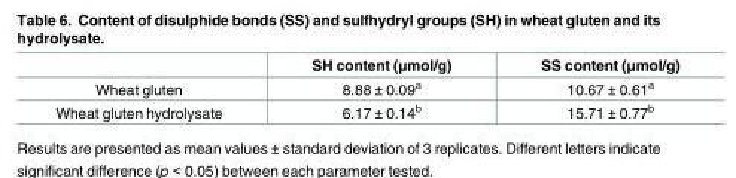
<table><thead><tr><td></td><td>SH content (μmol/g)</td><td>SS content (μmol/g)</td></tr></thead><tbody><tr><td>Wheat gluten</td><td>8.88 ± 0.09<sup>a</sup></td><td>10.67 ± 0.61<sup>a</sup></td></tr><tr><td>Wheat gluten hydrolysate</td><td>6.17 ± 0.14<sup>b</sup></td><td>15.71 ± 0.77<sup>b</sup></td></tr></tbody></table>